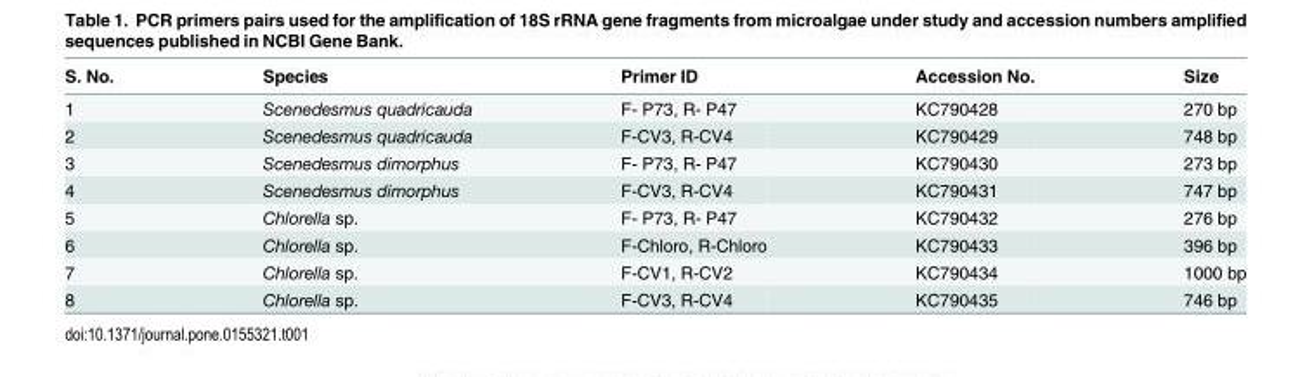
<table><thead><tr><td>S. No.</td><td>Species</td><td>Primer ID</td><td>Accession No.</td><td>Size</td></tr></thead><tbody><tr><td>1</td><td>Scenedesmus quadricauda</td><td>F- P73, R- P47</td><td>KC790428</td><td>270 bp</td></tr><tr><td>2</td><td>Scenedesmus quadricauda</td><td>F-CV3, R-CV4</td><td>KC790429</td><td>748 bp</td></tr><tr><td>3</td><td>Scenedesmus dimorphus</td><td>F- P73, R- P47</td><td>KC790430</td><td>273 bp</td></tr><tr><td>4</td><td>Scenedesmus dimorphus</td><td>F-CV3, R-CV4</td><td>KC790431</td><td>747 bp</td></tr><tr><td>5</td><td>Chlorella sp.</td><td>F- P73, R- P47</td><td>KC790432</td><td>276 bp</td></tr><tr><td>6</td><td>Chlorella sp.</td><td>F-Chloro, R-Chloro</td><td>KC790433</td><td>396 bp</td></tr><tr><td>7</td><td>Chlorella sp.</td><td>F-CV1, R-CV2</td><td>KC790434</td><td>1000 bp</td></tr><tr><td>8</td><td>Chlorella sp.</td><td>F-CV3, R-CV4</td><td>KC790435</td><td>746 bp</td></tr></tbody></table>